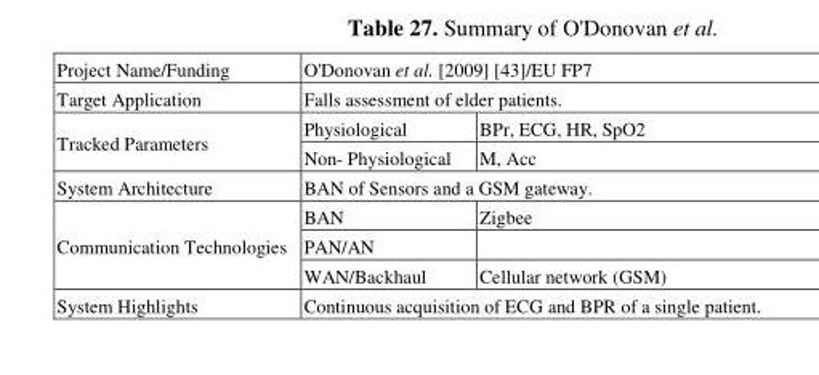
<table><tbody><tr><td>Project Name/Funding</td><td colspan="2">O&#x27;Donovan et al. [2009] [43]/EU FP7</td></tr><tr><td>Target Application</td><td colspan="2">Falls assessment of elder patients.</td></tr><tr><td rowspan="2">Tracked Parameters</td><td>Physiological</td><td>BPr, ECG, HR, SpO2</td></tr><tr><td>Non- Physiological</td><td>M, Acc</td></tr><tr><td>System Architecture</td><td colspan="2">BAN of Sensors and a GSM gateway.</td></tr><tr><td rowspan="3">Communication Technologies</td><td>BAN</td><td>Zigbee</td></tr><tr><td>PAN/AN</td><td></td></tr><tr><td>WAN/Backhaul</td><td>Cellular network (GSM)</td></tr><tr><td>System Highlights</td><td colspan="2">Continuous acquisition of ECG and BPR of a single patient.</td></tr></tbody></table>